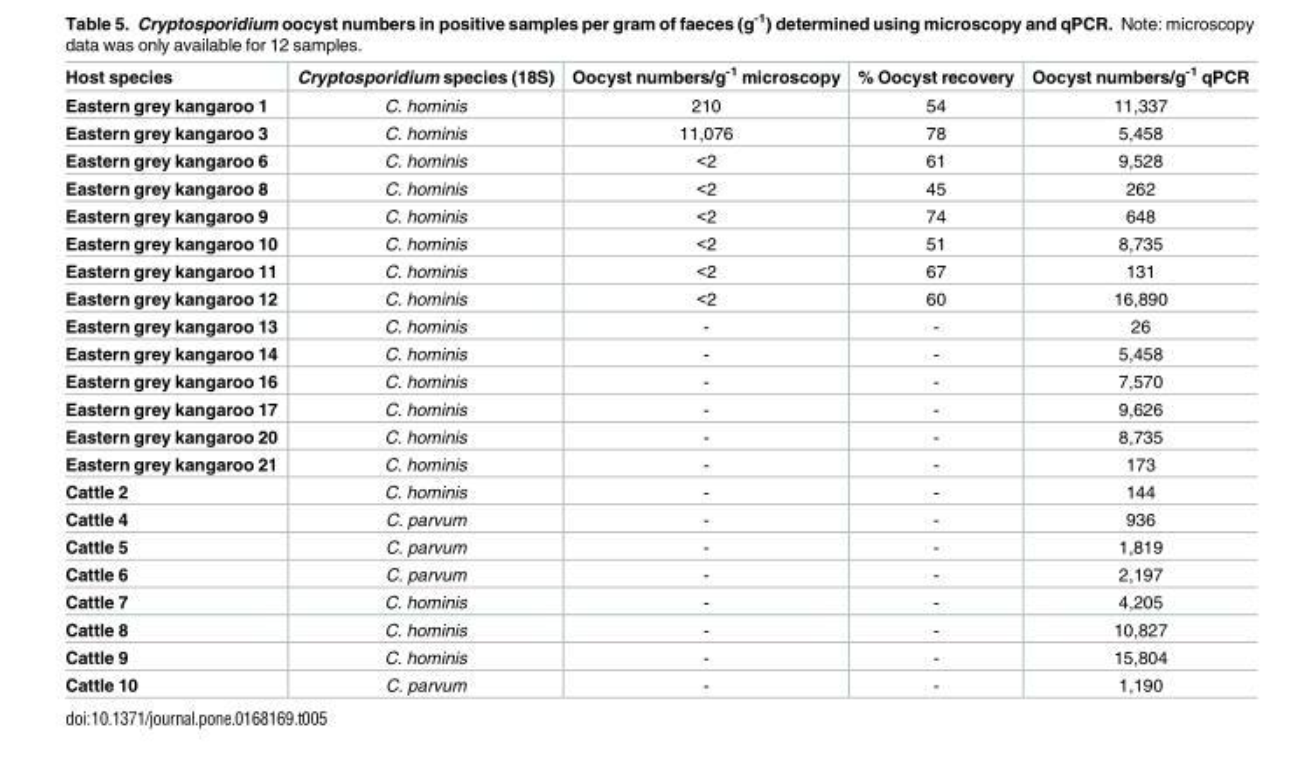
<table><thead><tr><td>Host species</td><td>Cryptosporidium species (18S)</td><td>Oocyst numbers/g<sup>-1</sup> microscopy</td><td>% Oocyst recovery</td><td>Oocyst numbers/g<sup>-1</sup> qPCR</td></tr></thead><tbody><tr><td>Eastern grey kangaroo 1</td><td>C. hominis</td><td>210</td><td>54</td><td>11,337</td></tr><tr><td>Eastern grey kangaroo 3</td><td>C. hominis</td><td>11,076</td><td>78</td><td>5,458</td></tr><tr><td>Eastern grey kangaroo 6</td><td>C. hominis</td><td>&lt;2</td><td>61</td><td>9,528</td></tr><tr><td>Eastern grey kangaroo 8</td><td>C. hominis</td><td>&lt;2</td><td>45</td><td>262</td></tr><tr><td>Eastern grey kangaroo 9</td><td>C. hominis</td><td>&lt;2</td><td>74</td><td>648</td></tr><tr><td>Eastern grey kangaroo 10</td><td>C. hominis</td><td>&lt;2</td><td>51</td><td>8,735</td></tr><tr><td>Eastern grey kangaroo 11</td><td>C. hominis</td><td>&lt;2</td><td>67</td><td>131</td></tr><tr><td>Eastern grey kangaroo 12</td><td>C. hominis</td><td>&lt;2</td><td>60</td><td>16,890</td></tr><tr><td>Eastern grey kangaroo 13</td><td>C. hominis</td><td>-</td><td>-</td><td>26</td></tr><tr><td>Eastern grey kangaroo 14</td><td>C. hominis</td><td>-</td><td>-</td><td>5,458</td></tr><tr><td>Eastern grey kangaroo 16</td><td>C. hominis</td><td>-</td><td>-</td><td>7,570</td></tr><tr><td>Eastern grey kangaroo 17</td><td>C. hominis</td><td>-</td><td>-</td><td>9,626</td></tr><tr><td>Eastern grey kangaroo 20</td><td>C. hominis</td><td>-</td><td>-</td><td>8,735</td></tr><tr><td>Eastern grey kangaroo 21</td><td>C. hominis</td><td>-</td><td>-</td><td>173</td></tr><tr><td>Cattle 2</td><td>C. hominis</td><td>-</td><td>-</td><td>144</td></tr><tr><td>Cattle 4</td><td>C. parvum</td><td>-</td><td>-</td><td>936</td></tr><tr><td>Cattle 5</td><td>C. parvum</td><td>-</td><td>-</td><td>1,819</td></tr><tr><td>Cattle 6</td><td>C. parvum</td><td>-</td><td>-</td><td>2,197</td></tr><tr><td>Cattle 7</td><td>C. hominis</td><td>-</td><td>-</td><td>4,205</td></tr><tr><td>Cattle 8</td><td>C. hominis</td><td>-</td><td>-</td><td>10,827</td></tr><tr><td>Cattle 9</td><td>C. hominis</td><td>-</td><td>-</td><td>15,804</td></tr><tr><td>Cattle 10</td><td>C. parvum</td><td>-</td><td>-</td><td>1,190</td></tr></tbody></table>